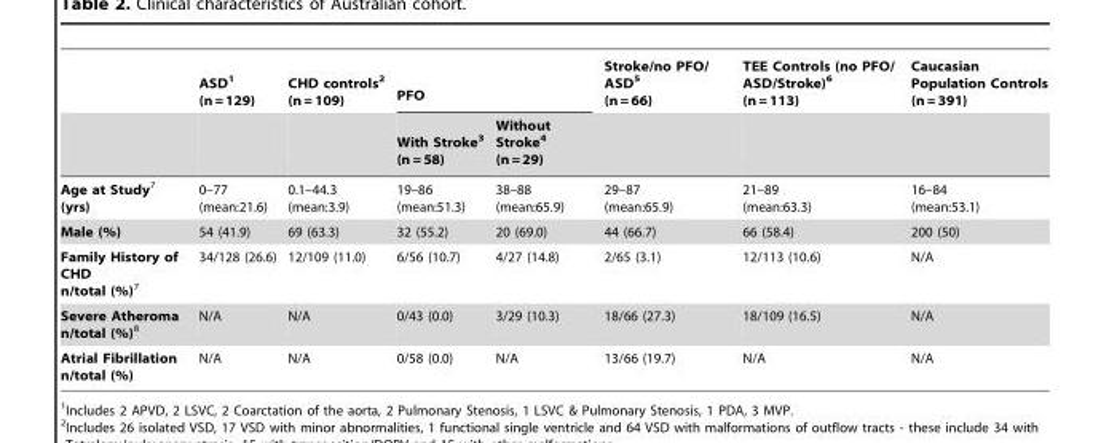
<table><thead><tr><td rowspan="2"></td><td rowspan="2">ASD<sup>1</sup> (n = 129)</td><td rowspan="2">CHD controls<sup>2</sup> (n = 109)</td><td colspan="2">PFO</td><td rowspan="2">Stroke/no PFO/ ASD<sup>5</sup> (n = 66)</td><td rowspan="2">TEE Controls (no PFO/ ASD/Stroke)<sup>6</sup> (n = 113)</td><td rowspan="2">Caucasian Population Controls (n = 391)</td></tr><tr><td>With Stroke<sup>3</sup> (n = 58)</td><td>Without Stroke<sup>4</sup> (n = 29)</td></tr></thead><tbody><tr><td>Age at Study7 (yrs)</td><td>0–77 (mean:21.6)</td><td>0.1–44.3 (mean:3.9)</td><td>19–86 (mean:51.3)</td><td>38–88 (mean:65.9)</td><td>29–87 (mean:65.9)</td><td>21–89 (mean:63.3)</td><td>16–84 (mean:53.1)</td></tr><tr><td>Male (%)</td><td>54 (41.9)</td><td>69 (63.3)</td><td>32 (55.2)</td><td>20 (69.0)</td><td>44 (66.7)</td><td>66 (58.4)</td><td>200 (50)</td></tr><tr><td>Family History of CHD n/total (%)7</td><td>34/128 (26.6)</td><td>12/109 (11.0)</td><td>6/56 (10.7)</td><td>4/27 (14.8)</td><td>2/65 (3.1)</td><td>12/113 (10.6)</td><td>N/A</td></tr><tr><td>Severe Atheroma n/total (%)8</td><td>N/A</td><td>N/A</td><td>0/43 (0.0)</td><td>3/29 (10.3)</td><td>18/66 (27.3)</td><td>18/109 (16.5)</td><td>N/A</td></tr><tr><td>Atrial Fibrillation n/total (%)</td><td>N/A</td><td>N/A</td><td>0/58 (0.0)</td><td>N/A</td><td>13/66 (19.7)</td><td>N/A</td><td>N/A</td></tr></tbody></table>